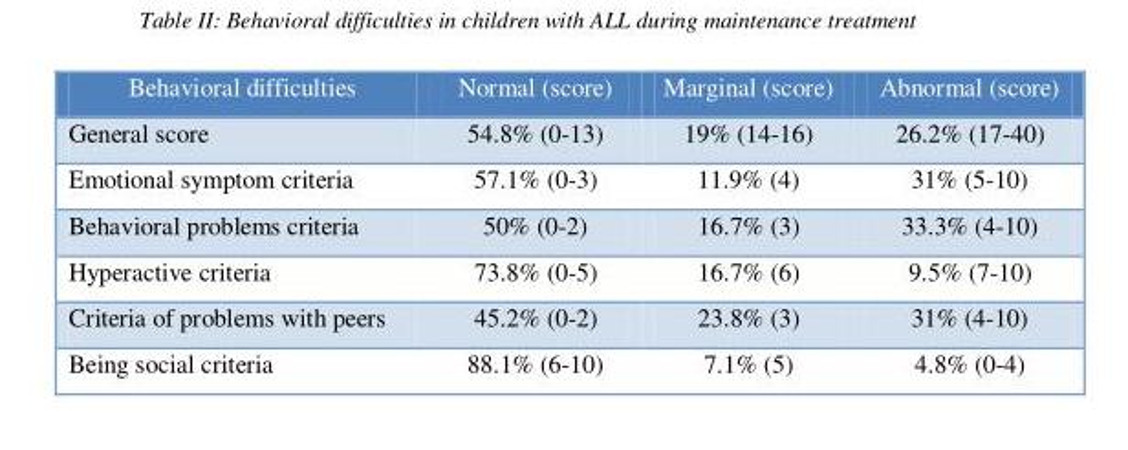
<table><thead><tr><td>Behavioral difficulties</td><td>Normal (score)</td><td>Marginal (score)</td><td>Abnormal (score)</td></tr></thead><tbody><tr><td>General score</td><td>54.8% (0-13)</td><td>19% (14-16)</td><td>26.2% (17-40)</td></tr><tr><td>Emotional symptom criteria</td><td>57.1% (0-3)</td><td>11.9% (4)</td><td>31% (5-10)</td></tr><tr><td>Behavioral problems criteria</td><td>50% (0-2)</td><td>16.7% (3)</td><td>33.3% (4-10)</td></tr><tr><td>Hyperactive criteria</td><td>73.8% (0-5)</td><td>16.7% (6)</td><td>9.5% (7-10)</td></tr><tr><td>Criteria of problems with peers</td><td>45.2% (0-2)</td><td>23.8% (3)</td><td>31% (4-10)</td></tr><tr><td>Being social criteria</td><td>88.1% (6-10)</td><td>7.1% (5)</td><td>4.8% (0-4)</td></tr></tbody></table>